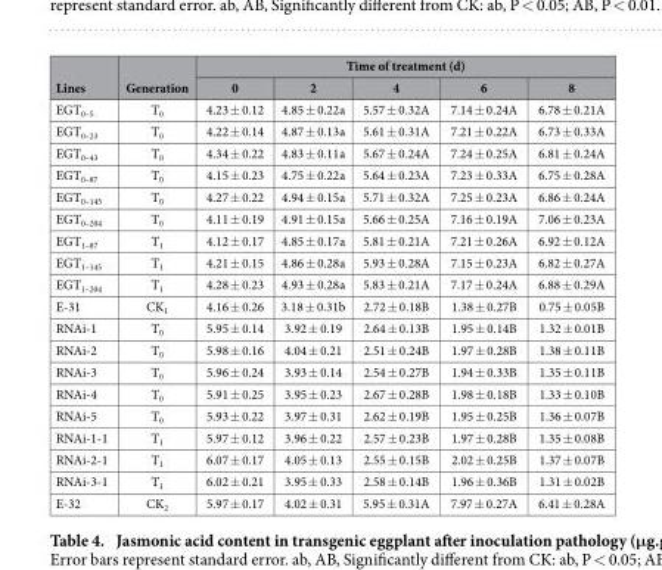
<table><thead><tr><td rowspan="2">Lines</td><td rowspan="2">Generation</td><td colspan="5">Time of treatment (d)</td></tr><tr><td>0</td><td>2</td><td>4</td><td>6</td><td>8</td></tr></thead><tbody><tr><td>EGT<sub>0–5</sub></td><td>T<sub>0</sub></td><td>4.23 ± 0.12</td><td>4.85 ± 0.22a</td><td>5.57 ± 0.32A</td><td>7.14 ± 0.24A</td><td>6.78 ± 0.21A</td></tr><tr><td>EGT<sub>0–23</sub></td><td>T<sub>0</sub></td><td>4.22 ± 0.14</td><td>4.87 ± 0.13a</td><td>5.61 ± 0.31A</td><td>7.21 ± 0.22A</td><td>6.73 ± 0.33A</td></tr><tr><td>EGT<sub>0–43</sub></td><td>T<sub>0</sub></td><td>4.34 ± 0.22</td><td>4.83 ± 0.11a</td><td>5.67 ± 0.24A</td><td>7.24 ± 0.25A</td><td>6.81 ± 0.24A</td></tr><tr><td>EGT<sub>0–87</sub></td><td>T<sub>0</sub></td><td>4.15 ± 0.23</td><td>4.75 ± 0.22a</td><td>5.64 ± 0.23A</td><td>7.23 ± 0.33A</td><td>6.75 ± 0.28A</td></tr><tr><td>EGT<sub>0–145</sub></td><td>T<sub>0</sub></td><td>4.27 ± 0.22</td><td>4.94 ± 0.15a</td><td>5.71 ± 0.32A</td><td>7.25 ± 0.23A</td><td>6.86 ± 0.24A</td></tr><tr><td>EGT<sub>0–204</sub></td><td>T<sub>0</sub></td><td>4.11 ± 0.19</td><td>4.91 ± 0.15a</td><td>5.66 ± 0.25A</td><td>7.16 ± 0.19A</td><td>7.06 ± 0.23A</td></tr><tr><td>EGT<sub>1–87</sub></td><td>T<sub>1</sub></td><td>4.12 ± 0.17</td><td>4.85 ± 0.17a</td><td>5.81 ± 0.21A</td><td>7.21 ± 0.26A</td><td>6.92 ± 0.12A</td></tr><tr><td>EGT<sub>1–145</sub></td><td>T<sub>1</sub></td><td>4.21 ± 0.15</td><td>4.86 ± 0.28a</td><td>5.93 ± 0.28A</td><td>7.15 ± 0.23A</td><td>6.82 ± 0.27A</td></tr><tr><td>EGT<sub>1–204</sub></td><td>T<sub>1</sub></td><td>4.28 ± 0.23</td><td>4.93 ± 0.28a</td><td>5.83 ± 0.21A</td><td>7.17 ± 0.24A</td><td>6.88 ± 0.29A</td></tr><tr><td>E-31</td><td>CK<sub>1</sub></td><td>4.16 ± 0.26</td><td>3.18 ± 0.31b</td><td>2.72 ± 0.18B</td><td>1.38 ± 0.27B</td><td>0.75 ± 0.05B</td></tr><tr><td>RNAi-1</td><td>T<sub>0</sub></td><td>5.95 ± 0.14</td><td>3.92 ± 0.19</td><td>2.64 ± 0.13B</td><td>1.95 ± 0.14B</td><td>1.32 ± 0.01B</td></tr><tr><td>RNAi-2</td><td>T<sub>0</sub></td><td>5.98 ± 0.16</td><td>4.04 ± 0.21</td><td>2.51 ± 0.24B</td><td>1.97 ± 0.28B</td><td>1.38 ± 0.11B</td></tr><tr><td>RNAi-3</td><td>T<sub>0</sub></td><td>5.96 ± 0.24</td><td>3.93 ± 0.14</td><td>2.54 ± 0.27B</td><td>1.94 ± 0.33B</td><td>1.35 ± 0.11B</td></tr><tr><td>RNAi-4</td><td>T<sub>0</sub></td><td>5.91 ± 0.25</td><td>3.95 ± 0.23</td><td>2.67 ± 0.28B</td><td>1.98 ± 0.18B</td><td>1.33 ± 0.10B</td></tr><tr><td>RNAi-5</td><td>T<sub>0</sub></td><td>5.93 ± 0.22</td><td>3.97 ± 0.31</td><td>2.62 ± 0.19B</td><td>1.95 ± 0.25B</td><td>1.36 ± 0.07B</td></tr><tr><td>RNAi-1-1</td><td>T<sub>1</sub></td><td>5.97 ± 0.12</td><td>3.96 ± 0.22</td><td>2.57 ± 0.23B</td><td>1.97 ± 0.28B</td><td>1.35 ± 0.08B</td></tr><tr><td>RNAi-2-1</td><td>T<sub>1</sub></td><td>6.07 ± 0.17</td><td>4.05 ± 0.13</td><td>2.55 ± 0.15B</td><td>2.02 ± 0.25B</td><td>1.37 ± 0.07B</td></tr><tr><td>RNAi-3-1</td><td>T<sub>1</sub></td><td>6.02 ± 0.21</td><td>3.95 ± 0.33</td><td>2.58 ± 0.14B</td><td>1.96 ± 0.36B</td><td>1.31 ± 0.02B</td></tr><tr><td>E-32</td><td>CK<sub>2</sub></td><td>5.97 ± 0.17</td><td>4.02 ± 0.31</td><td>5.95 ± 0.31A</td><td>7.97 ± 0.27A</td><td>6.41 ± 0.28A</td></tr></tbody></table>